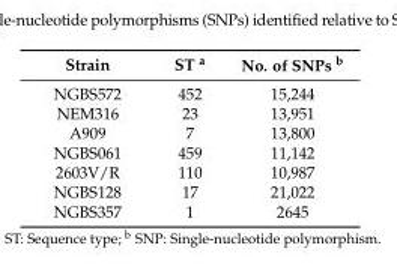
<table><thead><tr><td>Strain</td><td>ST <sup>a</sup></td><td>No. of SNPs <sup>b</sup></td></tr></thead><tbody><tr><td>NGBS572</td><td>452</td><td>15,244</td></tr><tr><td>NEM316</td><td>23</td><td>13,951</td></tr><tr><td>A909</td><td>7</td><td>13,800</td></tr><tr><td>NGBS061</td><td>459</td><td>11,142</td></tr><tr><td>2603V/R</td><td>110</td><td>10,987</td></tr><tr><td>NGBS128</td><td>17</td><td>21,022</td></tr><tr><td>NGBS357</td><td>1</td><td>2645</td></tr></tbody></table>